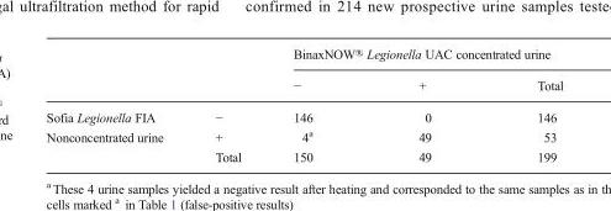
<table><thead><tr><td rowspan="2"></td><td rowspan="2"></td><td colspan="3">BinaxNOW® Legionella UAC concentrated urine</td></tr><tr><td>−</td><td>+</td><td>Total</td></tr></thead><tbody><tr><td rowspan="3">Sofia Legionella FIA Nonconcentrated urine</td><td rowspan="2">− +</td><td>146</td><td>0</td><td>146</td></tr><tr><td>4<sup>a</sup></td><td>49</td><td>53</td></tr><tr><td>Total</td><td>150</td><td>49</td><td>199</td></tr></tbody></table>